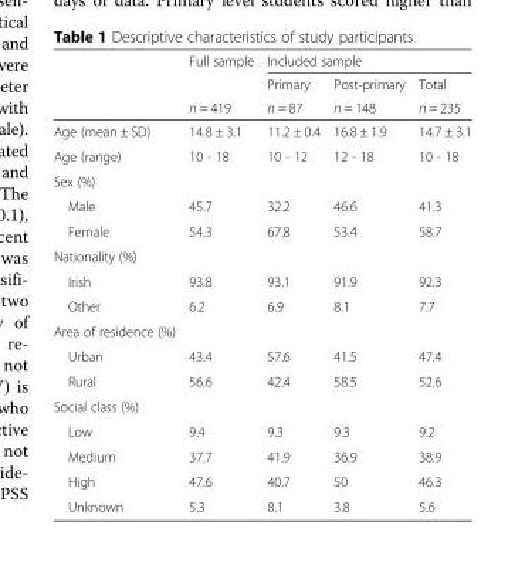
<table><thead><tr><td rowspan="3"></td><td rowspan="3">Full sample n = 419</td><td colspan="3">Included sample</td></tr><tr><td rowspan="2">Primary n = 87</td><td rowspan="2">Post-primary n = 148</td><td rowspan="2">Total n = 235</td></tr><tr></tr></thead><tbody><tr><td>Age (mean ± SD)</td><td>14.8 ± 3.1</td><td>11.2 ± 0.4</td><td>16.8 ± 1.9</td><td>14.7 ± 3.1</td></tr><tr><td>Age (range)</td><td>10 - 18</td><td>10 - 12</td><td>12 - 18</td><td>10 - 18</td></tr><tr><td colspan="5">Sex (%)</td></tr><tr><td>Male</td><td>45.7</td><td>32.2</td><td>46.6</td><td>41.3</td></tr><tr><td>Female</td><td>54.3</td><td>67.8</td><td>53.4</td><td>58.7</td></tr><tr><td colspan="5">Nationality (%)</td></tr><tr><td>Irish</td><td>93.8</td><td>93.1</td><td>91.9</td><td>92.3</td></tr><tr><td>Other</td><td>6.2</td><td>6.9</td><td>8.1</td><td>7.7</td></tr><tr><td colspan="5">Area of residence (%)</td></tr><tr><td>Urban</td><td>43.4</td><td>57.6</td><td>41.5</td><td>47.4</td></tr><tr><td>Rural</td><td>56.6</td><td>42.4</td><td>58.5</td><td>52.6</td></tr><tr><td colspan="5">Social class (%)</td></tr><tr><td>Low</td><td>9.4</td><td>9.3</td><td>9.3</td><td>9.2</td></tr><tr><td>Medium</td><td>37.7</td><td>41.9</td><td>36.9</td><td>38.9</td></tr><tr><td>High</td><td>47.6</td><td>40.7</td><td>50</td><td>46.3</td></tr><tr><td>Unknown</td><td>5.3</td><td>8.1</td><td>3.8</td><td>5.6</td></tr></tbody></table>